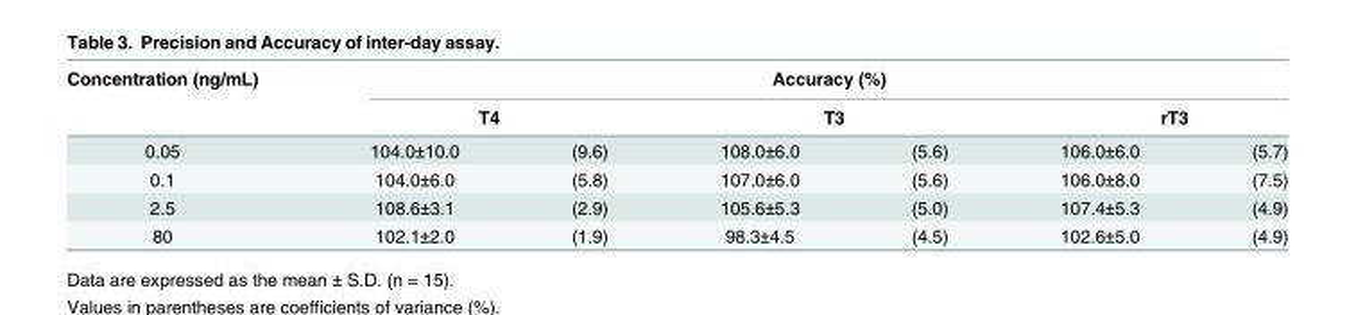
<table><thead><tr><td rowspan="3">Concentration (ng/mL) 0.05</td><td colspan="6">Accuracy (%)</td></tr><tr><td colspan="2">T4</td><td colspan="2">T3</td><td colspan="2">rT3</td></tr><tr><td>104.0±10.0</td><td>(9.6)</td><td>108.0±6.0</td><td>(5.6)</td><td>106.0±6.0</td><td>(5.7)</td></tr></thead><tbody><tr><td>0.1</td><td>104.0±6.0</td><td>(5.8)</td><td>107.0±6.0</td><td>(5.6)</td><td>106.0±8.0</td><td>(7.5)</td></tr><tr><td>2.5</td><td>108.6±3.1</td><td>(2.9)</td><td>105.6±5.3</td><td>(5.0)</td><td>107.4±5.3</td><td>(4.9)</td></tr><tr><td>80</td><td>102.1±2.0</td><td>(1.9)</td><td>98.3±4.5</td><td>(4.5)</td><td>102.6±5.0</td><td>(4.9)</td></tr></tbody></table>